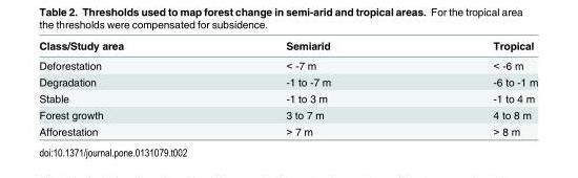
<table><thead><tr><td>Class/Study area</td><td>Semiarid</td><td>Tropical</td></tr></thead><tbody><tr><td>Deforestation</td><td>&lt; -7 m</td><td>&lt; -6 m</td></tr><tr><td>Degradation</td><td>-1 to -7 m</td><td>-6 to -1 m</td></tr><tr><td>Stable</td><td>-1 to 3 m</td><td>-1 to 4 m</td></tr><tr><td>Forest growth</td><td>3 to 7 m</td><td>4 to 8 m</td></tr><tr><td>Afforestation</td><td>&gt; 7 m</td><td>&gt; 8 m</td></tr></tbody></table>